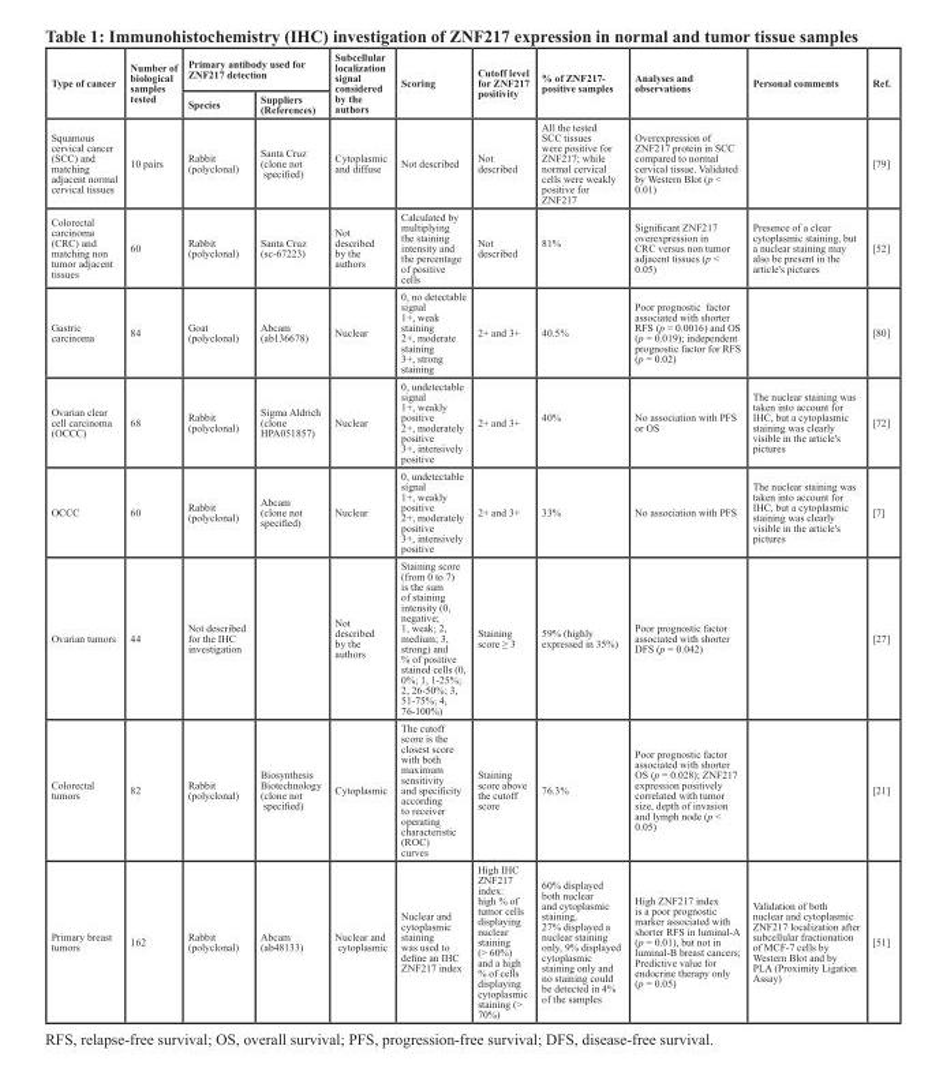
<table><thead><tr><td rowspan="2">Type of cancer</td><td rowspan="2">Number of biological samples tested</td><td colspan="2">Primary antibody used for ZNF217 detection</td><td rowspan="2">Subcellular localization signal considered by the authors</td><td rowspan="2">Scoring</td><td rowspan="2">Cutoff level for ZNF217 positivity</td><td rowspan="2">% of ZNF217- positive samples</td><td rowspan="2">Analyses and observations</td><td rowspan="2">Personal comments</td><td rowspan="2">Ref.</td></tr><tr><td>Species</td><td>Suppliers (References)</td></tr></thead><tbody><tr><td>Squamous cervical cancer (SCC) and matching adjacent normal cervical tissues</td><td>10 pairs</td><td>Rabbit (polyclonal)</td><td>Santa Cruz (clone not specified)</td><td>Cytoplasmic and diffuse</td><td>Not described</td><td>Not described</td><td>All the tested SCC tissues were positive for ZNF217; while normal cervical cells were weakly positive for ZNF217</td><td>Overexpression of ZNF217 protein in SCC compared to normal cervical tissue. Validated by Western Blot (p &lt; 0.01)</td><td></td><td>[79]</td></tr><tr><td>Colorectal carcinoma (CRC) and matching non tumor adjacent tissues</td><td>60</td><td>Rabbit (polyclonal)</td><td>Santa Cruz (sc-67223)</td><td>Not described by the authors</td><td>Calculated by multiplying the staining intensity and the percentage of positive cells</td><td>Not described</td><td>81%</td><td>Significant ZNF217 overexpression in CRC versus non tumor adjacent tissues (p &lt; 0.05)</td><td>Presence of a clear cytoplasmic staining, but a nuclear staining may also be present in the article&#x27;s pictures</td><td>[52]</td></tr><tr><td>Gastric carcinoma</td><td>84</td><td>Goat (polyclonal)</td><td>Abcam (ab136678)</td><td>Nuclear</td><td>0, no detectable signal 1+, weak staining 2+, moderate staining 3+, strong staining</td><td>2+ and 3+</td><td>40.5%</td><td>Poor prognostic factor associated with shorter RFS (p = 0.0016) and OS (p = 0.019); independent prognostic factor for RFS (p = 0.02)</td><td></td><td>[80]</td></tr><tr><td>Ovarian clear cell carcinoma (OCCC)</td><td>68</td><td>Rabbit (polyclonal)</td><td>Sigma Aldrich (clone HPA051857)</td><td>Nuclear</td><td>0, undetectable signal 1+, weakly positive 2+, moderately positive 3+, intensively positive</td><td>2+ and 3+</td><td>40%</td><td>No association with PFS or OS</td><td>The nuclear staining was taken into account for IHC, but a cytoplasmic staining was clearly visible in the article&#x27;s pictures</td><td>[72]</td></tr><tr><td>OCCC</td><td>60</td><td>Rabbit (polyclonal)</td><td>Abcam (clone not specified)</td><td>Nuclear</td><td>0, undetectable signal 1+, weakly positive 2+, moderately positive 3+, intensively positive</td><td>2+ and 3+</td><td>33%</td><td>No association with PFS</td><td>The nuclear staining was taken into account for IHC, but a cytoplasmic staining was clearly visible in the article&#x27;s pictures</td><td>[7]</td></tr><tr><td>Ovarian tumors</td><td>44</td><td>Not described for the IHC investigation</td><td></td><td>Not described by the authors</td><td>Staining score (from 0 to 7) is the sum of staining intensity (0, negative; 1, weak; 2, medium; 3, strong) and % of positive stained cells (0, 0%; 1, 1-25%; 2, 26-50%; 3, 51-75%; 4, 76-100%)</td><td>Staining score ≥ 3</td><td>59% (highly expressed in 35%)</td><td>Poor prognostic factor associated with shorter DFS (p = 0.042)</td><td></td><td>[27]</td></tr><tr><td>Colorectal tumors</td><td>82</td><td>Rabbit (polyclonal)</td><td>Biosynthesis Biotechnology (clone not specified)</td><td>Cytoplasmic</td><td>The cutoff score is the closest score with both maximum sensitivity and specificity according to receiver operating characteristic (ROC) curves</td><td>Staining score above the cutoff score</td><td>76.3%</td><td>Poor prognostic factor associated with shorter OS (p = 0.028); ZNF217 expression positively correlated with tumor size, depth of invasion and lymph node (p &lt; 0.05)</td><td></td><td>[21]</td></tr><tr><td>Primary breast tumors</td><td>162</td><td>Rabbit (polyclonal)</td><td>Abcam (ab48133)</td><td>Nuclear and cytoplasmic</td><td>Nuclear and cytoplasmic staining was used to define an IHC ZNF217 index</td><td>High IHC ZNF217 index: high % of tumor cells displaying nuclear staining (&gt; 60%) and a high % of cells displaying cytoplasmic staining (&gt; 70%)</td><td>60% displayed both nuclear and cytoplasmic staining, 27% displayed a nuclear staining only, 9% displayed cytoplasmic staining only and no staining could be detected in 4% of the samples</td><td>High ZNF217 index is a poor prognostic marker associated with shorter RFS in luminal-A (p = 0.01), but not in luminal-B breast cancers; Predictive value for endocrine therapy only (p = 0.05)</td><td>Validation of both nuclear and cytoplasmic ZNF217 localization after subcellular fractionation of MCF-7 cells by Western Blot and by PLA (Proximity Ligation Assay)</td><td>[51]</td></tr></tbody></table>